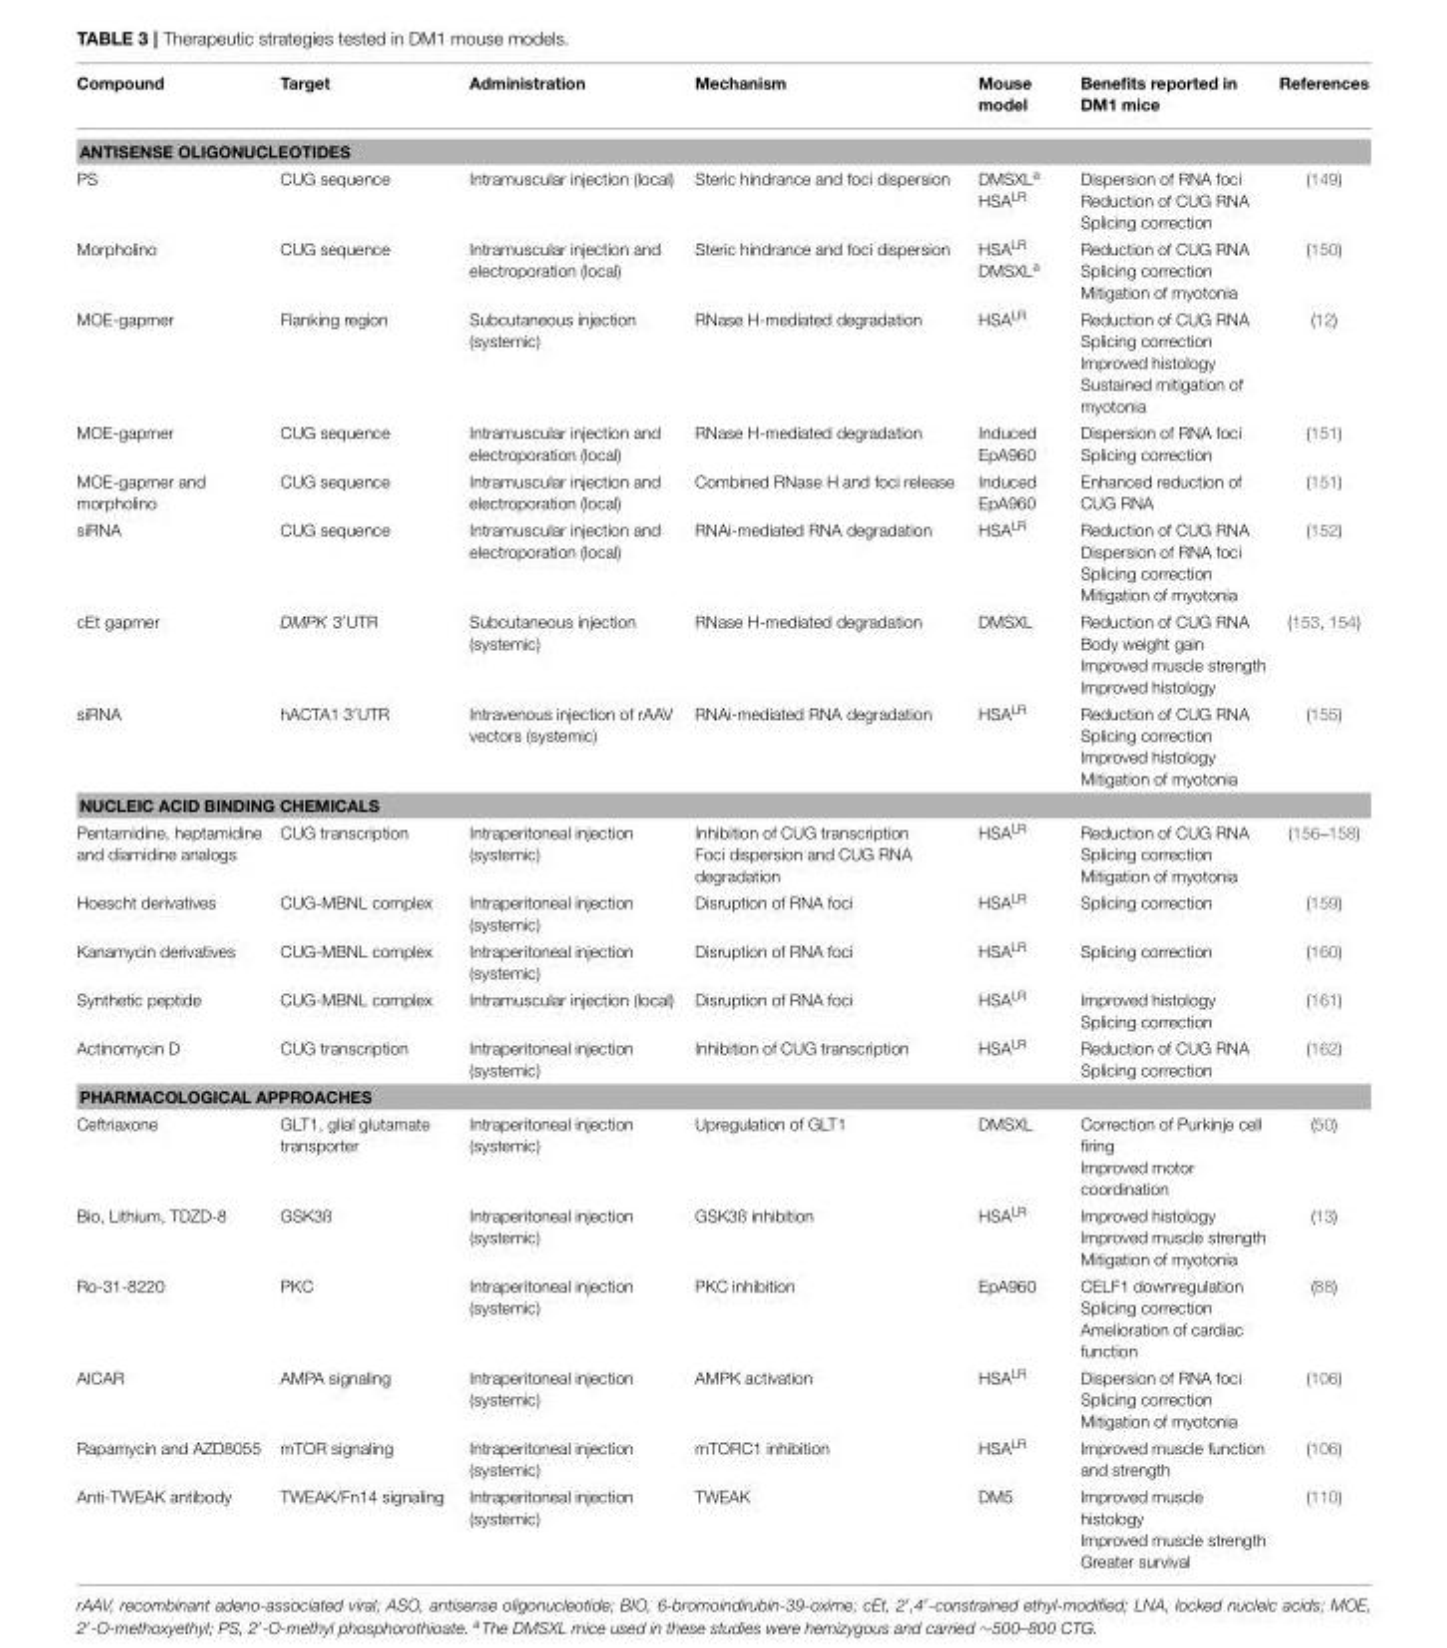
<table><thead><tr><td>Compound</td><td>Target</td><td>Administration</td><td>Mechanism</td><td>Mouse model</td><td>Benefits reported in DM1 mice</td><td>References</td></tr></thead><tbody><tr><td colspan="7">ANTISENSE OLIGONUCLEOTIDES</td></tr><tr><td>PS</td><td>CUG sequence</td><td>Intramuscular injection (local)</td><td>Steric hindrance and foci dispersion</td><td>DMSXL<sup>a</sup> HSA<sup>LR</sup></td><td>Dispersion of RNA foci Reduction of CUG RNA Splicing correction</td><td>(149)</td></tr><tr><td>Morpholino</td><td>CUG sequence</td><td>Intramuscular injection and electroporation (local)</td><td>Steric hindrance and foci dispersion</td><td>HSA<sup>LR</sup> DMSXL<sup>a</sup></td><td>Reduction of CUG RNA Splicing correction Mitigation of myotonia</td><td>(150)</td></tr><tr><td>MOE-gapmer</td><td>Flanking region</td><td>Subcutaneous injection (systemic)</td><td>RNase H-mediated degradation</td><td>HSA<sup>LR</sup></td><td>Reduction of CUG RNA Splicing correction Improved histology Sustained mitigation of myotonia</td><td>(12)</td></tr><tr><td>MOE-gapmer</td><td>CUG sequence</td><td>Intramuscular injection and electroporation (local)</td><td>RNase H-mediated degradation</td><td>Induced EpA960</td><td>Dispersion of RNA foci Splicing correction</td><td>(151)</td></tr><tr><td>MOE-gapmer and morpholino</td><td>CUG sequence</td><td>Intramuscular injection and electroporation (local)</td><td>Combined RNase H and foci release</td><td>Induced EpA960</td><td>Enhanced reduction of CUG RNA</td><td>(151)</td></tr><tr><td>siRNA</td><td>CUG sequence</td><td>Intramuscular injection and electroporation (local)</td><td>RNAi-mediated RNA degradation</td><td>HSA<sup>LR</sup></td><td>Reduction of CUG RNA Dispersion of RNA foci Splicing correction Mitigation of myotonia</td><td>(152)</td></tr><tr><td>cEt gapmer</td><td>DMPK 3′UTR</td><td>Subcutaneous injection (systemic)</td><td>RNase H-mediated degradation</td><td>DMSXL</td><td>Reduction of CUG RNA Body weight gain Improved muscle strength Improved histology</td><td>(153, 154)</td></tr><tr><td>siRNA</td><td>hACTA1 3′UTR</td><td>Intravenous injection of rAAV vectors (systemic)</td><td>RNAi-mediated RNA degradation</td><td>HSA<sup>LR</sup></td><td>Reduction of CUG RNA Splicing correction Improved histology Mitigation of myotonia</td><td>(155)</td></tr><tr><td colspan="7">NUCLEIC ACID BINDING CHEMICALS</td></tr><tr><td>Pentamidine, heptamidine and diamidine analogs</td><td>CUG transcription</td><td>Intraperitoneal injection (systemic)</td><td>Inhibition of CUG transcription Foci dispersion and CUG RNA degradation</td><td>HSA<sup>LR</sup></td><td>Reduction of CUG RNA Splicing correction Mitigation of myotonia</td><td>(156–158)</td></tr><tr><td>Hoescht derivatives</td><td>CUG-MBNL complex</td><td>Intraperitoneal injection (systemic)</td><td>Disruption of RNA foci</td><td>HSA<sup>LR</sup></td><td>Splicing correction</td><td>(159)</td></tr><tr><td>Kanamycin derivatives</td><td>CUG-MBNL complex</td><td>Intraperitoneal injection (systemic)</td><td>Disruption of RNA foci</td><td>HSA<sup>LR</sup></td><td>Splicing correction</td><td>(160)</td></tr><tr><td>Synthetic peptide</td><td>CUG-MBNL complex</td><td>Intramuscular injection (local)</td><td>Disruption of RNA foci</td><td>HSA<sup>LR</sup></td><td>Improved histology Splicing correction</td><td>(161)</td></tr><tr><td>Actinomycin D</td><td>CUG transcription</td><td>Intraperitoneal injection (systemic)</td><td>Inhibition of CUG transcription</td><td>HSA<sup>LR</sup></td><td>Reduction of CUG RNA Splicing correction</td><td>(162)</td></tr><tr><td colspan="7">PHARMACOLOGICAL APPROACHES</td></tr><tr><td>Ceftriaxone</td><td>GLT1, glial glutamate transporter</td><td>Intraperitoneal injection (systemic)</td><td>Upregulation of GLT1</td><td>DMSXL</td><td>Correction of Purkinje cell firing Improved motor coordination</td><td>(50)</td></tr><tr><td>Bio, Lithium, TDZD-8</td><td>GSK3ß</td><td>Intraperitoneal injection (systemic)</td><td>GSK3ß inhibition</td><td>HSA<sup>LR</sup></td><td>Improved histology Improved muscle strength Mitigation of myotonia</td><td>(13)</td></tr><tr><td>Ro-31-8220</td><td>PKC</td><td>Intraperitoneal injection (systemic)</td><td>PKC inhibition</td><td>EpA960</td><td>CELF1 downregulation Splicing correction Amelioration of cardiac function</td><td>(88)</td></tr><tr><td>AICAR</td><td>AMPA signaling</td><td>Intraperitoneal injection (systemic)</td><td>AMPK activation</td><td>HSA<sup>LR</sup></td><td>Dispersion of RNA foci Splicing correction Mitigation of myotonia</td><td>(106)</td></tr><tr><td>Rapamycin and AZD8055</td><td>mTOR signaling</td><td>Intraperitoneal injection (systemic)</td><td>mTORC1 inhibition</td><td>HSA<sup>LR</sup></td><td>Improved muscle function and strength</td><td>(106)</td></tr><tr><td>Anti-TWEAK antibody</td><td>TWEAK/Fn14 signaling</td><td>Intraperitoneal injection (systemic)</td><td>TWEAK</td><td>DM5</td><td>Improved muscle histology Improved muscle strength Greater survival</td><td>(110)</td></tr></tbody></table>